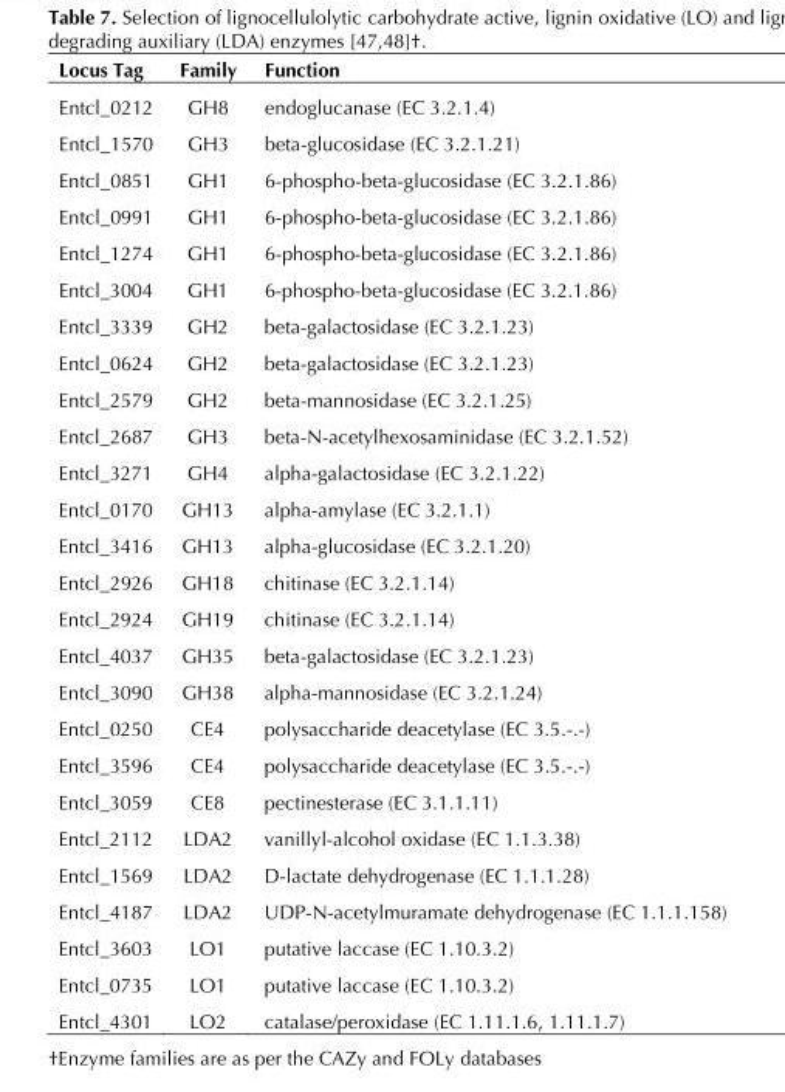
<table><thead><tr><td>Locus Tag</td><td>Family</td><td>Function</td></tr></thead><tbody><tr><td>Entcl_0212</td><td>GH8</td><td>endoglucanase (EC 3.2.1.4)</td></tr><tr><td>Entcl_1570</td><td>GH3</td><td>beta-glucosidase (EC 3.2.1.21)</td></tr><tr><td>Entcl_0851</td><td>GH1</td><td>6-phospho-beta-glucosidase (EC 3.2.1.86)</td></tr><tr><td>Entcl_0991</td><td>GH1</td><td>6-phospho-beta-glucosidase (EC 3.2.1.86)</td></tr><tr><td>Entcl_1274</td><td>GH1</td><td>6-phospho-beta-glucosidase (EC 3.2.1.86)</td></tr><tr><td>Entcl_3004</td><td>GH1</td><td>6-phospho-beta-glucosidase (EC 3.2.1.86)</td></tr><tr><td>Entcl_3339</td><td>GH2</td><td>beta-galactosidase (EC 3.2.1.23)</td></tr><tr><td>Entcl_0624</td><td>GH2</td><td>beta-galactosidase (EC 3.2.1.23)</td></tr><tr><td>Entcl_2579</td><td>GH2</td><td>beta-mannosidase (EC 3.2.1.25)</td></tr><tr><td>Entcl_2687</td><td>GH3</td><td>beta-N-acetylhexosaminidase (EC 3.2.1.52)</td></tr><tr><td>Entcl_3271</td><td>GH4</td><td>alpha-galactosidase (EC 3.2.1.22)</td></tr><tr><td>Entcl_0170</td><td>GH13</td><td>alpha-amylase (EC 3.2.1.1)</td></tr><tr><td>Entcl_3416</td><td>GH13</td><td>alpha-glucosidase (EC 3.2.1.20)</td></tr><tr><td>Entcl_2926</td><td>GH18</td><td>chitinase (EC 3.2.1.14)</td></tr><tr><td>Entcl_2924</td><td>GH19</td><td>chitinase (EC 3.2.1.14)</td></tr><tr><td>Entcl_4037</td><td>GH35</td><td>beta-galactosidase (EC 3.2.1.23)</td></tr><tr><td>Entcl_3090</td><td>GH38</td><td>alpha-mannosidase (EC 3.2.1.24)</td></tr><tr><td>Entcl_0250</td><td>CE4</td><td>polysaccharide deacetylase (EC 3.5.-.-)</td></tr><tr><td>Entcl_3596</td><td>CE4</td><td>polysaccharide deacetylase (EC 3.5.-.-)</td></tr><tr><td>Entcl_3059</td><td>CE8</td><td>pectinesterase (EC 3.1.1.11)</td></tr><tr><td>Entcl_2112</td><td>LDA2</td><td>vanillyl-alcohol oxidase (EC 1.1.3.38)</td></tr><tr><td>Entcl_1569</td><td>LDA2</td><td>D-lactate dehydrogenase (EC 1.1.1.28)</td></tr><tr><td>Entcl_4187</td><td>LDA2</td><td>UDP-N-acetylmuramate dehydrogenase (EC 1.1.1.158)</td></tr><tr><td>Entcl_3603</td><td>LO1</td><td>putative laccase (EC 1.10.3.2)</td></tr><tr><td>Entcl_0735</td><td>LO1</td><td>putative laccase (EC 1.10.3.2)</td></tr><tr><td>Entcl_4301</td><td>LO2</td><td>catalase/peroxidase (EC 1.11.1.6, 1.11.1.7)</td></tr></tbody></table>